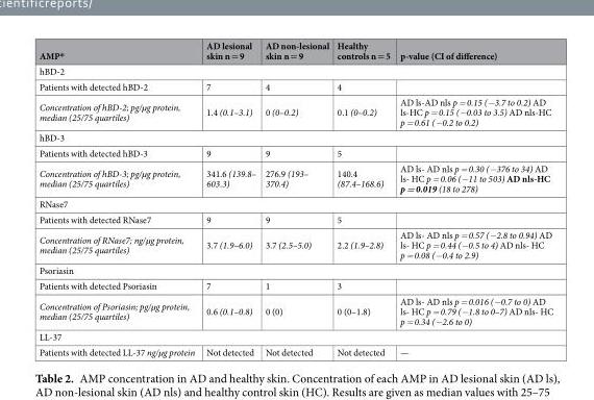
<table><thead><tr><td>AMP*</td><td>AD lesional skin n = 9</td><td>AD non-lesional skin n = 9</td><td>Healthy controls n = 5</td><td>p-value (CI of difference)</td></tr></thead><tbody><tr><td colspan="5">hBD-2</td></tr><tr><td>Patients with detected hBD-2</td><td>7</td><td>4</td><td>4</td><td></td></tr><tr><td>Concentration of hBD-2; pg/µg protein, median (25/75 quartiles)</td><td>1.4 (0.1–3.1)</td><td>0 (0–0.2)</td><td>0.1 (0–0.2)</td><td>AD ls-AD nls p = 0.15 (−3.7 to 0.2) AD ls-HC p = 0.15 (−0.03 to 3.5) AD nls-HC p = 0.61 (−0.2 to 0.2)</td></tr><tr><td colspan="5">hBD-3</td></tr><tr><td>Patients with detected hBD-3</td><td>9</td><td>9</td><td>5</td><td></td></tr><tr><td>Concentration of hBD-3; pg/µg protein, median (25/75 quartiles)</td><td>341.6 (139.8– 603.3)</td><td>276.9 (193– 370.4)</td><td>140.4 (87.4–168.6)</td><td>AD ls- AD nls p = 0.30 (−376 to 34) AD ls- HC p = 0.06 (−11 to 503) AD nls-HC p = 0.019 (18 to 278)</td></tr><tr><td colspan="5">RNase7</td></tr><tr><td>Patients with detected RNase7</td><td>9</td><td>9</td><td>5</td><td></td></tr><tr><td>Concentration of RNase7; ng/µg protein, median (25/75 quartiles)</td><td>3.7 (1.9–6.0)</td><td>3.7 (2.5–5.0)</td><td>2.2 (1.9–2.8)</td><td>AD ls- AD nls p = 0.57 (−2.8 to 0.94) AD ls- HC p = 0.44 (−0.5 to 4) AD nls- HC p = 0.08 (−0.4 to 2.9)</td></tr><tr><td colspan="5">Psoriasin</td></tr><tr><td>Patients with detected Psoriasin</td><td>7</td><td>1</td><td>3</td><td></td></tr><tr><td>Concentration of Psoriasin; pg/µg protein, median (25/75 quartiles)</td><td>0.6 (0.1–0.8)</td><td>0 (0)</td><td>0 (0–1.8)</td><td>AD ls- AD nls p = 0.016 (−0.7 to 0) AD ls- HC p = 0.79 (−1.8 to 0–7) AD nls- HC p = 0.34 (−2.6 to 0)</td></tr><tr><td colspan="5">LL-37</td></tr><tr><td>Patients with detected LL-37 ng/µg protein</td><td>Not detected</td><td>Not detected</td><td>Not detected</td><td>—</td></tr></tbody></table>